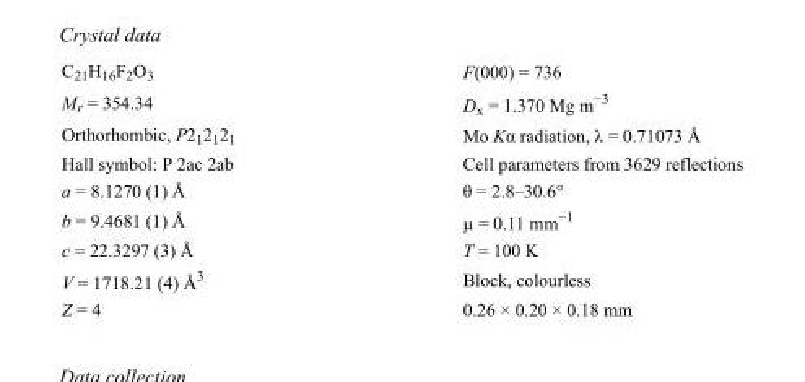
<table><tbody><tr><td>C<sub>21</sub>H<sub>16</sub>F<sub>2</sub>O<sub>3</sub></td><td>F(000) = 736</td></tr><tr><td>M<sub>r</sub> = 354.34</td><td>D<sub>x</sub> = 1.370 Mg m<sup>−3</sup></td></tr><tr><td>Orthorhombic, P2<sub>1</sub>2<sub>1</sub>2<sub>1</sub></td><td>Mo Kα radiation, λ = 0.71073 Å</td></tr><tr><td>Hall symbol: P 2ac 2ab</td><td>Cell parameters from 3629 reflections</td></tr><tr><td>a = 8.1270 (1) Å</td><td>θ = 2.8–30.6°</td></tr><tr><td>b = 9.4681 (1) Å</td><td>µ = 0.11 mm<sup>−1</sup></td></tr><tr><td>c = 22.3297 (3) Å</td><td>T = 100 K</td></tr><tr><td>V = 1718.21 (4) Å<sup>3</sup></td><td>Block, colourless</td></tr><tr><td>Z = 4</td><td>0.26 × 0.20 × 0.18 mm</td></tr></tbody></table>